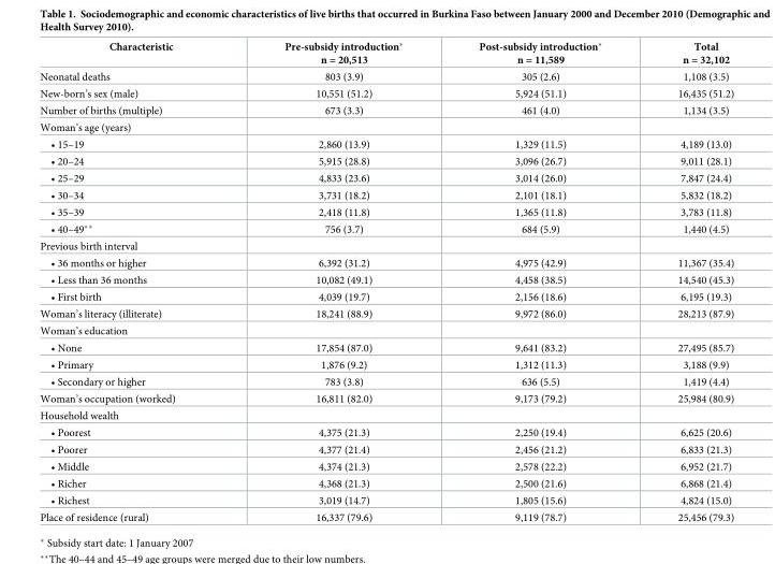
<table><thead><tr><td>Characteristic</td><td>Pre-subsidy introduction* n = 20,513</td><td>Post-subsidy introduction* n = 11,589</td><td>Total n = 32,102</td></tr></thead><tbody><tr><td>Neonatal deaths</td><td>803 (3.9)</td><td>305 (2.6)</td><td>1,108 (3.5)</td></tr><tr><td>New-born’s sex (male)</td><td>10,551 (51.2)</td><td>5,924 (51.1)</td><td>16,435 (51.2)</td></tr><tr><td>Number of births (multiple)</td><td>673 (3.3)</td><td>461 (4.0)</td><td>1,134 (3.5)</td></tr><tr><td colspan="4">Woman’s age (years)</td></tr><tr><td>• 15–19</td><td>2,860 (13.9)</td><td>1,329 (11.5)</td><td>4,189 (13.0)</td></tr><tr><td>• 20–24</td><td>5,915 (28.8)</td><td>3,096 (26.7)</td><td>9,011 (28.1)</td></tr><tr><td>• 25–29</td><td>4,833 (23.6)</td><td>3,014 (26.0)</td><td>7,847 (24.4)</td></tr><tr><td>• 30–34</td><td>3,731 (18.2)</td><td>2,101 (18.1)</td><td>5,832 (18.2)</td></tr><tr><td>• 35–39</td><td>2,418 (11.8)</td><td>1,365 (11.8)</td><td>3,783 (11.8)</td></tr><tr><td>• 40–49**</td><td>756 (3.7)</td><td>684 (5.9)</td><td>1,440 (4.5)</td></tr><tr><td colspan="4">Previous birth interval</td></tr><tr><td>• 36 months or higher</td><td>6,392 (31.2)</td><td>4,975 (42.9)</td><td>11,367 (35.4)</td></tr><tr><td>• Less than 36 months</td><td>10,082 (49.1)</td><td>4,458 (38.5)</td><td>14,540 (45.3)</td></tr><tr><td>• First birth</td><td>4,039 (19.7)</td><td>2,156 (18.6)</td><td>6,195 (19.3)</td></tr><tr><td>Woman’s literacy (illiterate)</td><td>18,241 (88.9)</td><td>9,972 (86.0)</td><td>28,213 (87.9)</td></tr><tr><td colspan="4">Woman’s education</td></tr><tr><td>• None</td><td>17,854 (87.0)</td><td>9,641 (83.2)</td><td>27,495 (85.7)</td></tr><tr><td>• Primary</td><td>1,876 (9.2)</td><td>1,312 (11.3)</td><td>3,188 (9.9)</td></tr><tr><td>• Secondary or higher</td><td>783 (3.8)</td><td>636 (5.5)</td><td>1,419 (4.4)</td></tr><tr><td>Woman’s occupation (worked)</td><td>16,811 (82.0)</td><td>9,173 (79.2)</td><td>25,984 (80.9)</td></tr><tr><td colspan="4">Household wealth</td></tr><tr><td>• Poorest</td><td>4,375 (21.3)</td><td>2,250 (19.4)</td><td>6,625 (20.6)</td></tr><tr><td>• Poorer</td><td>4,377 (21.4)</td><td>2,456 (21.2)</td><td>6,833 (21.3)</td></tr><tr><td>• Middle</td><td>4,374 (21.3)</td><td>2,578 (22.2)</td><td>6,952 (21.7)</td></tr><tr><td>• Richer</td><td>4,368 (21.3)</td><td>2,500 (21.6)</td><td>6,868 (21.4)</td></tr><tr><td>• Richest</td><td>3,019 (14.7)</td><td>1,805 (15.6)</td><td>4,824 (15.0)</td></tr><tr><td>Place of residence (rural)</td><td>16,337 (79.6)</td><td>9,119 (78.7)</td><td>25,456 (79.3)</td></tr></tbody></table>